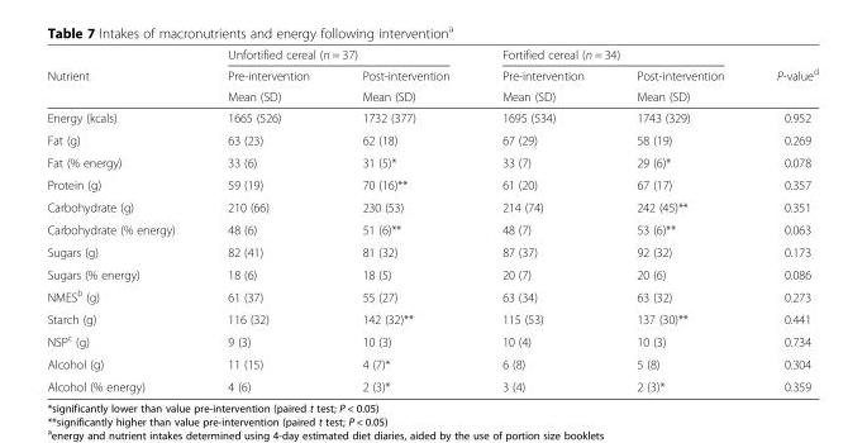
<table><thead><tr><td rowspan="3">Nutrient</td><td colspan="2">Unfortified cereal (n = 37)</td><td colspan="2">Fortified cereal (n = 34)</td><td rowspan="3">P-value<sup>d</sup></td></tr><tr><td rowspan="2">Pre-intervention Mean (SD)</td><td rowspan="2">Post-intervention Mean (SD)</td><td rowspan="2">Pre-intervention Mean (SD)</td><td rowspan="2">Post-intervention Mean (SD)</td></tr><tr></tr></thead><tbody><tr><td>Energy (kcals)</td><td>1665 (526)</td><td>1732 (377)</td><td>1695 (534)</td><td>1743 (329)</td><td>0.952</td></tr><tr><td>Fat (g)</td><td>63 (23)</td><td>62 (18)</td><td>67 (29)</td><td>58 (19)</td><td>0.269</td></tr><tr><td>Fat (% energy)</td><td>33 (6)</td><td>31 (5)*</td><td>33 (7)</td><td>29 (6)*</td><td>0.078</td></tr><tr><td>Protein (g)</td><td>59 (19)</td><td>70 (16)**</td><td>61 (20)</td><td>67 (17)</td><td>0.357</td></tr><tr><td>Carbohydrate (g)</td><td>210 (66)</td><td>230 (53)</td><td>214 (74)</td><td>242 (45)**</td><td>0.351</td></tr><tr><td>Carbohydrate (% energy)</td><td>48 (6)</td><td>51 (6)**</td><td>48 (7)</td><td>53 (6)**</td><td>0.063</td></tr><tr><td>Sugars (g)</td><td>82 (41)</td><td>81 (32)</td><td>87 (37)</td><td>92 (32)</td><td>0.173</td></tr><tr><td>Sugars (% energy)</td><td>18 (6)</td><td>18 (5)</td><td>20 (7)</td><td>20 (6)</td><td>0.086</td></tr><tr><td>NMES<sup>b</sup> (g)</td><td>61 (37)</td><td>55 (27)</td><td>63 (34)</td><td>63 (32)</td><td>0.273</td></tr><tr><td>Starch (g)</td><td>116 (32)</td><td>142 (32)**</td><td>115 (53)</td><td>137 (30)**</td><td>0.441</td></tr><tr><td>NSP<sup>c</sup> (g)</td><td>9 (3)</td><td>10 (3)</td><td>10 (4)</td><td>10 (3)</td><td>0.734</td></tr><tr><td>Alcohol (g)</td><td>11 (15)</td><td>4 (7)*</td><td>6 (8)</td><td>5 (8)</td><td>0.304</td></tr><tr><td>Alcohol (% energy)</td><td>4 (6)</td><td>2 (3)*</td><td>3 (4)</td><td>2 (3)*</td><td>0.359</td></tr></tbody></table>